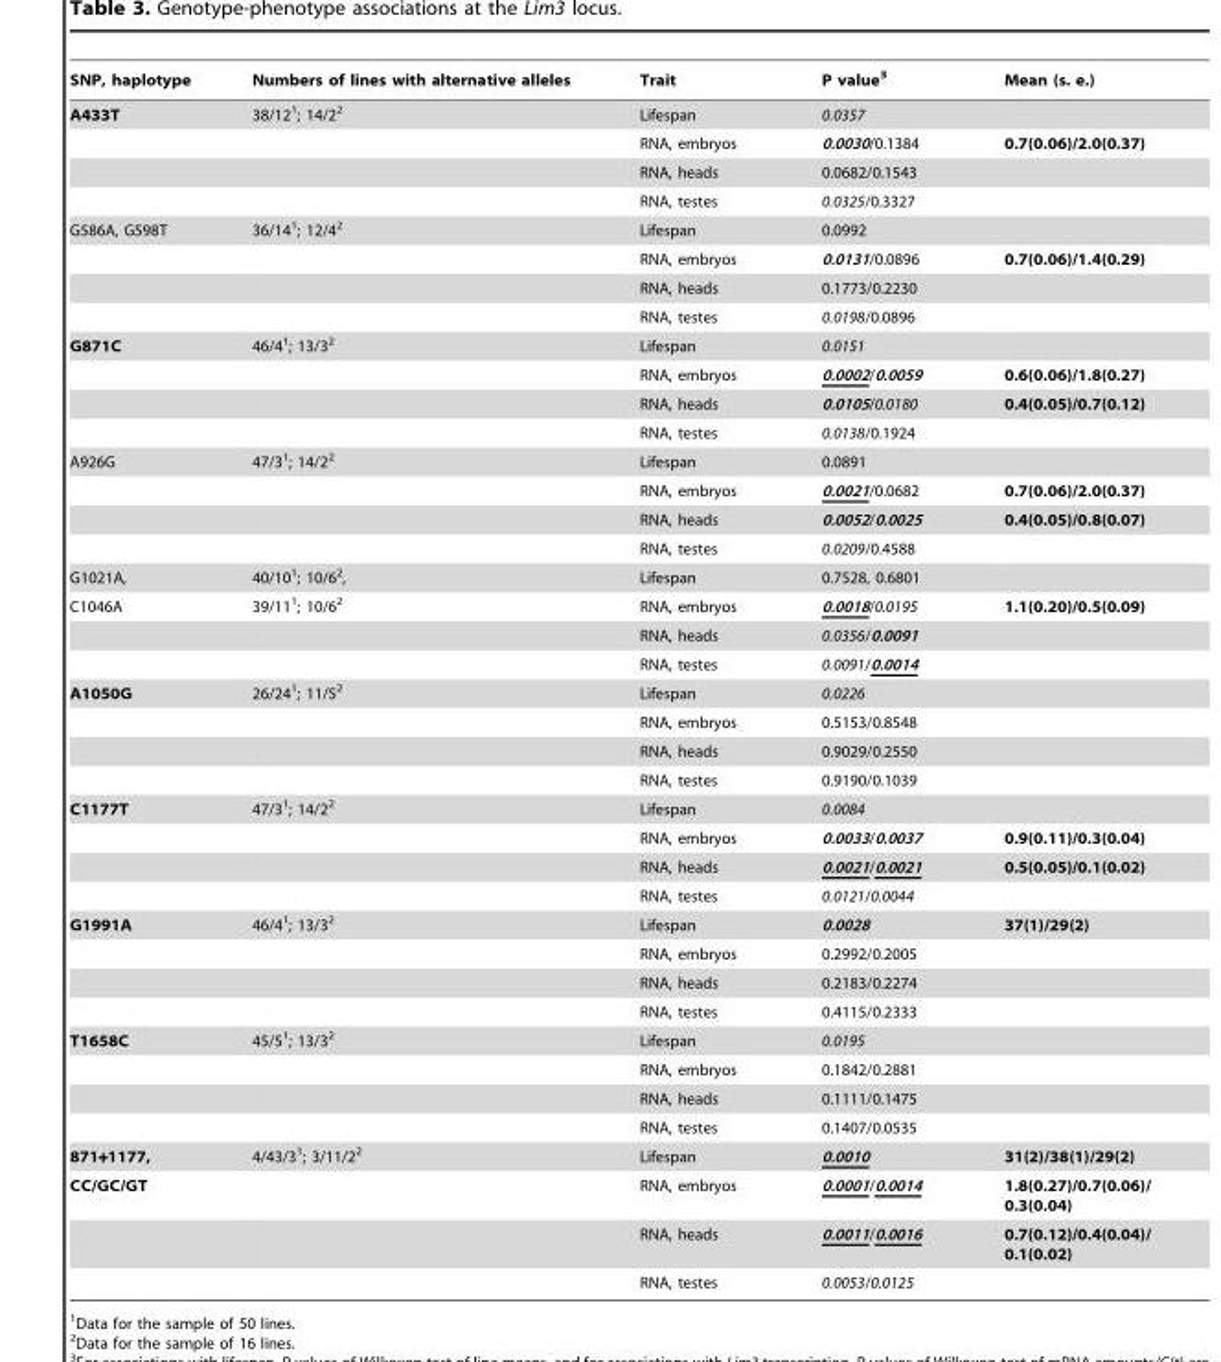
<table><thead><tr><td>SNP, haplotype</td><td>Numbers of lines with alternative alleles</td><td>Trait</td><td>P value<sup>3</sup></td><td>Mean (s. e.)</td></tr></thead><tbody><tr><td rowspan="4">A433T</td><td>38/12<sup>1</sup>; 14/2<sup>2</sup></td><td>Lifespan</td><td>0.0357</td><td></td></tr><tr><td></td><td>RNA, embryos</td><td>0.0030/0.1384</td><td>0.7(0.06)/2.0(0.37)</td></tr><tr><td></td><td>RNA, heads</td><td>0.0682/0.1543</td><td></td></tr><tr><td></td><td>RNA, testes</td><td>0.0325/0.3327</td><td></td></tr><tr><td rowspan="4">G586A, G598T</td><td>36/14<sup>1</sup>; 12/4<sup>2</sup></td><td>Lifespan</td><td>0.0992</td><td></td></tr><tr><td></td><td>RNA, embryos</td><td>0.0131/0.0896</td><td>0.7(0.06)/1.4(0.29)</td></tr><tr><td></td><td>RNA, heads</td><td>0.1773/0.2230</td><td></td></tr><tr><td></td><td>RNA, testes</td><td>0.0198/0.0896</td><td></td></tr><tr><td rowspan="4">G871C</td><td>46/4<sup>1</sup>; 13/3<sup>2</sup></td><td>Lifespan</td><td>0.0151</td><td></td></tr><tr><td></td><td>RNA, embryos</td><td>0.0002/0.0059</td><td>0.6(0.06)/1.8(0.27)</td></tr><tr><td></td><td>RNA, heads</td><td>0.0105/0.0180</td><td>0.4(0.05)/0.7(0.12)</td></tr><tr><td></td><td>RNA, testes</td><td>0.0138/0.1924</td><td></td></tr><tr><td rowspan="4">A926G</td><td>47/3<sup>1</sup>; 14/2<sup>2</sup></td><td>Lifespan</td><td>0.0891</td><td></td></tr><tr><td></td><td>RNA, embryos</td><td>0.0021/0.0682</td><td>0.7(0.06)/2.0(0.37)</td></tr><tr><td></td><td>RNA, heads</td><td>0.0052/0.0025</td><td>0.4(0.05)/0.8(0.07)</td></tr><tr><td></td><td>RNA, testes</td><td>0.0209/0.4588</td><td></td></tr><tr><td>G1021A,</td><td>40/10<sup>1</sup>; 10/6<sup>2</sup>,</td><td>Lifespan</td><td>0.7528, 0.6801</td><td></td></tr><tr><td rowspan="3">C1046A</td><td>39/11<sup>1</sup>; 10/6<sup>2</sup></td><td>RNA, embryos</td><td>0.0018/0.0195</td><td>1.1(0.20)/0.5(0.09)</td></tr><tr><td></td><td>RNA, heads</td><td>0.0356/0.0091</td><td></td></tr><tr><td></td><td>RNA, testes</td><td>0.0091/0.0014</td><td></td></tr><tr><td rowspan="4">A1050G</td><td>26/24<sup>1</sup>; 11/5<sup>2</sup></td><td>Lifespan</td><td>0.0226</td><td></td></tr><tr><td></td><td>RNA, embryos</td><td>0.5153/0.8548</td><td></td></tr><tr><td></td><td>RNA, heads</td><td>0.9029/0.2550</td><td></td></tr><tr><td></td><td>RNA, testes</td><td>0.9190/0.1039</td><td></td></tr><tr><td rowspan="4">C1177T</td><td>47/3<sup>1</sup>; 14/2<sup>2</sup></td><td>Lifespan</td><td>0.0084</td><td></td></tr><tr><td></td><td>RNA, embryos</td><td>0.0033/0.0037</td><td>0.9(0.11)/0.3(0.04)</td></tr><tr><td></td><td>RNA, heads</td><td>0.0021/0.0021</td><td>0.5(0.05)/0.1(0.02)</td></tr><tr><td></td><td>RNA, testes</td><td>0.0121/0.0044</td><td></td></tr><tr><td rowspan="4">G1991A</td><td>46/4<sup>1</sup>; 13/3<sup>2</sup></td><td>Lifespan</td><td>0.0028</td><td>37(1)/29(2)</td></tr><tr><td></td><td>RNA, embryos</td><td>0.2992/0.2005</td><td></td></tr><tr><td></td><td>RNA, heads</td><td>0.2183/0.2274</td><td></td></tr><tr><td></td><td>RNA, testes</td><td>0.4115/0.2333</td><td></td></tr><tr><td rowspan="4">T1658C</td><td>45/5<sup>1</sup>; 13/3<sup>2</sup></td><td>Lifespan</td><td>0.0195</td><td></td></tr><tr><td></td><td>RNA, embryos</td><td>0.1842/0.2881</td><td></td></tr><tr><td></td><td>RNA, heads</td><td>0.1111/0.1475</td><td></td></tr><tr><td></td><td>RNA, testes</td><td>0.1407/0.0535</td><td></td></tr><tr><td>871+1177,</td><td>4/43/3<sup>1</sup>; 3/11/2<sup>2</sup></td><td>Lifespan</td><td>0.0010</td><td>31(2)/38(1)/29(2)</td></tr><tr><td rowspan="3">CC/GC/GT</td><td></td><td>RNA, embryos</td><td>0.0001/0.0014</td><td>1.8(0.27)/0.7(0.06)/ 0.3(0.04)</td></tr><tr><td></td><td>RNA, heads</td><td>0.0011/0.0016</td><td>0.7(0.12)/0.4(0.04)/ 0.1(0.02)</td></tr><tr><td></td><td>RNA, testes</td><td>0.0053/0.0125</td><td></td></tr></tbody></table>